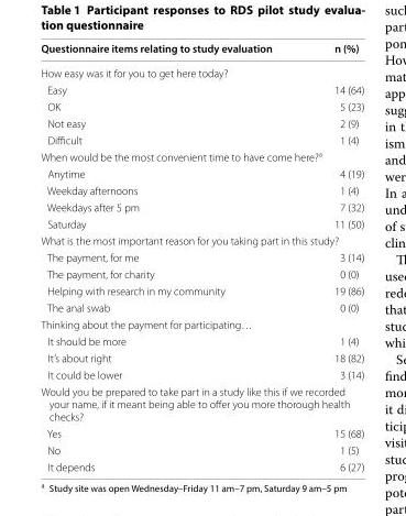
<table><thead><tr><td>Questionnaire items relating to study evaluation</td><td>n (%)</td></tr></thead><tbody><tr><td colspan="2">How easy was it for you to get here today?</td></tr><tr><td>Easy</td><td>14 (64)</td></tr><tr><td>OK</td><td>5 (23)</td></tr><tr><td>Not easy</td><td>2 (9)</td></tr><tr><td>Difficult</td><td>1 (4)</td></tr><tr><td colspan="2">When would be the most convenient time to have come here?<sup>a</sup></td></tr><tr><td>Anytime</td><td>4 (19)</td></tr><tr><td>Weekday afternoons</td><td>1 (4)</td></tr><tr><td>Weekdays after 5 pm</td><td>7 (32)</td></tr><tr><td>Saturday</td><td>11 (50)</td></tr><tr><td colspan="2">What is the most important reason for you taking part in this study?</td></tr><tr><td>The payment, for me</td><td>3 (14)</td></tr><tr><td>The payment, for charity</td><td>0 (0)</td></tr><tr><td>Helping with research in my community</td><td>19 (86)</td></tr><tr><td>The anal swab</td><td>0 (0)</td></tr><tr><td colspan="2">Thinking about the payment for participating…</td></tr><tr><td>It should be more</td><td>1 (4)</td></tr><tr><td>It’s about right</td><td>18 (82)</td></tr><tr><td>It could be lower</td><td>3 (14)</td></tr><tr><td colspan="2">Would you be prepared to take part in a study like this if we recorded your name, if it meant being able to offer you more thorough health checks?</td></tr><tr><td>Yes</td><td>15 (68)</td></tr><tr><td>No</td><td>1 (5)</td></tr><tr><td>It depends</td><td>6 (27)</td></tr></tbody></table>